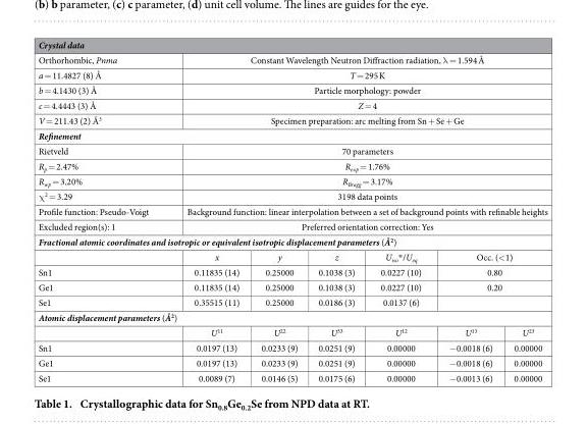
<table><thead><tr><td colspan="7">Crystal data</td></tr></thead><tbody><tr><td>Orthorhombic, Pnma</td><td colspan="6">Constant Wavelength Neutron Diffraction radiation, λ = 1.594 Å</td></tr><tr><td>a = 11.4827 (8) Å</td><td colspan="6">T = 295 K</td></tr><tr><td>b = 4.1430 (3) Å</td><td colspan="6">Particle morphology: powder</td></tr><tr><td>c = 4.4443 (3) Å</td><td colspan="6">Z = 4</td></tr><tr><td>V = 211.43 (2) Å<sup>3</sup></td><td colspan="6">Specimen preparation: arc melting from Sn + Se + Ge</td></tr><tr><td colspan="7">Refinement</td></tr><tr><td>Rietveld</td><td colspan="6">70 parameters</td></tr><tr><td>R<sub>p</sub> = 2.47%</td><td colspan="6">R<sub>exp</sub> = 1.76%</td></tr><tr><td>R<sub>wp</sub> = 3.20%</td><td colspan="6">R<sub>Bragg</sub> = 3.17%</td></tr><tr><td>χ <sup>2</sup> = 3.29</td><td colspan="6">3198 data points</td></tr><tr><td>Profile function: Pseudo-Voigt</td><td colspan="6">Background function: linear interpolation between a set of background points with refinable heights</td></tr><tr><td>Excluded region(s): 1</td><td colspan="6">Preferred orientation correction: Yes</td></tr><tr><td colspan="7">Fractional atomic coordinates and isotropic or equivalent isotropic displacement parameters (Å<sup>2</sup>)</td></tr><tr><td></td><td>x</td><td>y</td><td>z</td><td>U<sub>iso</sub>* /U<sub>eq</sub></td><td colspan="2">Occ. (&lt; 1)</td></tr><tr><td>Sn1</td><td>0.11835 (14)</td><td>0.25000</td><td>0.1038 (3)</td><td>0.0227 (10)</td><td colspan="2">0.80</td></tr><tr><td>Ge1</td><td>0.11835 (14)</td><td>0.25000</td><td>0.1038 (3)</td><td>0.0227 (10)</td><td colspan="2">0.20</td></tr><tr><td>Se1</td><td>0.35515 (11)</td><td>0.25000</td><td>0.0186 (3)</td><td>0.0137 (6)</td><td colspan="2"></td></tr><tr><td colspan="7">Atomic displacement parameters (Å<sup>2</sup>)</td></tr><tr><td></td><td>U<sup>11</sup></td><td>U<sup>22</sup></td><td>U<sup>33</sup></td><td>U<sup>12</sup></td><td>U<sup>13</sup></td><td>U<sup>23</sup></td></tr><tr><td>Sn1</td><td>0.0197 (13)</td><td>0.0233 (9)</td><td>0.0251 (9)</td><td>0.00000</td><td>− 0.0018 (6)</td><td>0.00000</td></tr><tr><td>Ge1</td><td>0.0197 (13)</td><td>0.0233 (9)</td><td>0.0251 (9)</td><td>0.00000</td><td>− 0.0018 (6)</td><td>0.00000</td></tr><tr><td>Se1</td><td>0.0089 (7)</td><td>0.0146 (5)</td><td>0.0175 (6)</td><td>0.00000</td><td>− 0.0013 (6)</td><td>0.00000</td></tr></tbody></table>